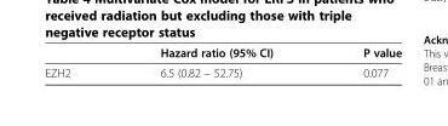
<table><thead><tr><td></td><td>Hazard ratio (95% CI)</td><td>P value</td></tr></thead><tbody><tr><td>EZH2</td><td>6.5 (0.82 – 52.75)</td><td>0.077</td></tr></tbody></table>